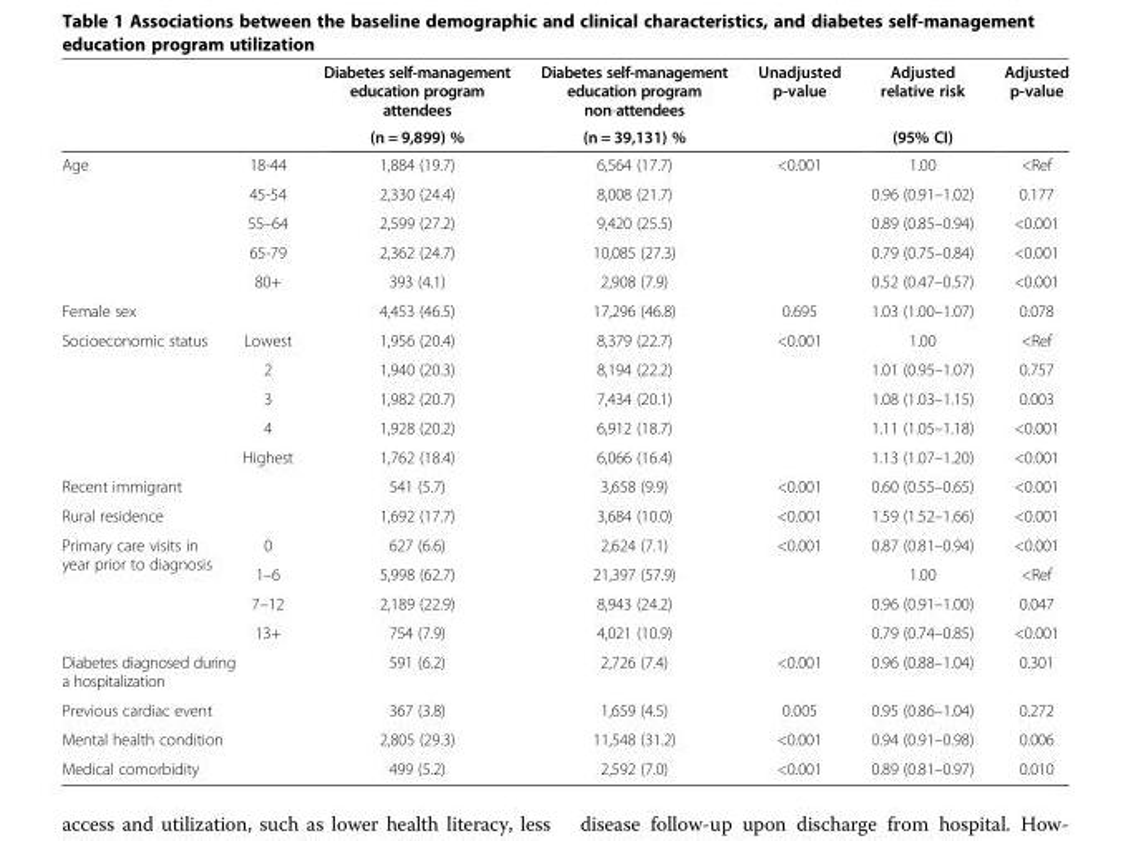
<table><thead><tr><td rowspan="2"></td><td rowspan="2"></td><td rowspan="2">Diabetes self-management education program attendees (n = 9,899) %</td><td rowspan="2">Diabetes self-management education program non-attendees (n = 39,131) %</td><td rowspan="2">Unadjusted p-value</td><td rowspan="2">Adjusted relative risk (95% CI)</td><td rowspan="2">Adjusted p-value</td></tr><tr></tr></thead><tbody><tr><td rowspan="5">Age</td><td>18-44</td><td>1,884 (19.7)</td><td>6,564 (17.7)</td><td rowspan="5">&lt;0.001</td><td>1.00</td><td>&lt;Ref</td></tr><tr><td>45-54</td><td>2,330 (24.4)</td><td>8,008 (21.7)</td><td>0.96 (0.91–1.02)</td><td>0.177</td></tr><tr><td>55–64</td><td>2,599 (27.2)</td><td>9,420 (25.5)</td><td>0.89 (0.85–0.94)</td><td>&lt;0.001</td></tr><tr><td>65-79</td><td>2,362 (24.7)</td><td>10,085 (27.3)</td><td>0.79 (0.75–0.84)</td><td>&lt;0.001</td></tr><tr><td>80+</td><td>393 (4.1)</td><td>2,908 (7.9)</td><td>0.52 (0.47–0.57)</td><td>&lt;0.001</td></tr><tr><td>Female sex</td><td></td><td>4,453 (46.5)</td><td>17,296 (46.8)</td><td>0.695</td><td>1.03 (1.00–1.07)</td><td>0.078</td></tr><tr><td rowspan="5">Socioeconomic status</td><td>Lowest</td><td>1,956 (20.4)</td><td>8,379 (22.7)</td><td rowspan="5">&lt;0.001</td><td>1.00</td><td>&lt;Ref</td></tr><tr><td>2</td><td>1,940 (20.3)</td><td>8,194 (22.2)</td><td>1.01 (0.95–1.07)</td><td>0.757</td></tr><tr><td>3</td><td>1,982 (20.7)</td><td>7,434 (20.1)</td><td>1.08 (1.03–1.15)</td><td>0.003</td></tr><tr><td>4</td><td>1,928 (20.2)</td><td>6,912 (18.7)</td><td>1.11 (1.05–1.18)</td><td>&lt;0.001</td></tr><tr><td>Highest</td><td>1,762 (18.4)</td><td>6,066 (16.4)</td><td>1.13 (1.07–1.20)</td><td>&lt;0.001</td></tr><tr><td colspan="2">Recent immigrant</td><td>541 (5.7)</td><td>3,658 (9.9)</td><td>&lt;0.001</td><td>0.60 (0.55–0.65)</td><td>&lt;0.001</td></tr><tr><td>Rural residence</td><td></td><td>1,692 (17.7)</td><td>3,684 (10.0)</td><td>&lt;0.001</td><td>1.59 (1.52–1.66)</td><td>&lt;0.001</td></tr><tr><td rowspan="4">Primary care visits in year prior to diagnosis</td><td>0</td><td>627 (6.6)</td><td>2,624 (7.1)</td><td>&lt;0.001</td><td>0.87 (0.81–0.94)</td><td>&lt;0.001</td></tr><tr><td>1–6</td><td>5,998 (62.7)</td><td>21,397 (57.9)</td><td></td><td>1.00</td><td>&lt;Ref</td></tr><tr><td>7–12</td><td>2,189 (22.9)</td><td>8,943 (24.2)</td><td></td><td>0.96 (0.91–1.00)</td><td>0.047</td></tr><tr><td>13+</td><td>754 (7.9)</td><td>4,021 (10.9)</td><td></td><td>0.79 (0.74–0.85)</td><td>&lt;0.001</td></tr><tr><td colspan="2">Diabetes diagnosed during a hospitalization</td><td>591 (6.2)</td><td>2,726 (7.4)</td><td>&lt;0.001</td><td>0.96 (0.88–1.04)</td><td>0.301</td></tr><tr><td colspan="2">Previous cardiac event</td><td>367 (3.8)</td><td>1,659 (4.5)</td><td>0.005</td><td>0.95 (0.86–1.04)</td><td>0.272</td></tr><tr><td colspan="2">Mental health condition</td><td>2,805 (29.3)</td><td>11,548 (31.2)</td><td>&lt;0.001</td><td>0.94 (0.91–0.98)</td><td>0.006</td></tr><tr><td colspan="2">Medical comorbidity</td><td>499 (5.2)</td><td>2,592 (7.0)</td><td>&lt;0.001</td><td>0.89 (0.81–0.97)</td><td>0.010</td></tr></tbody></table>